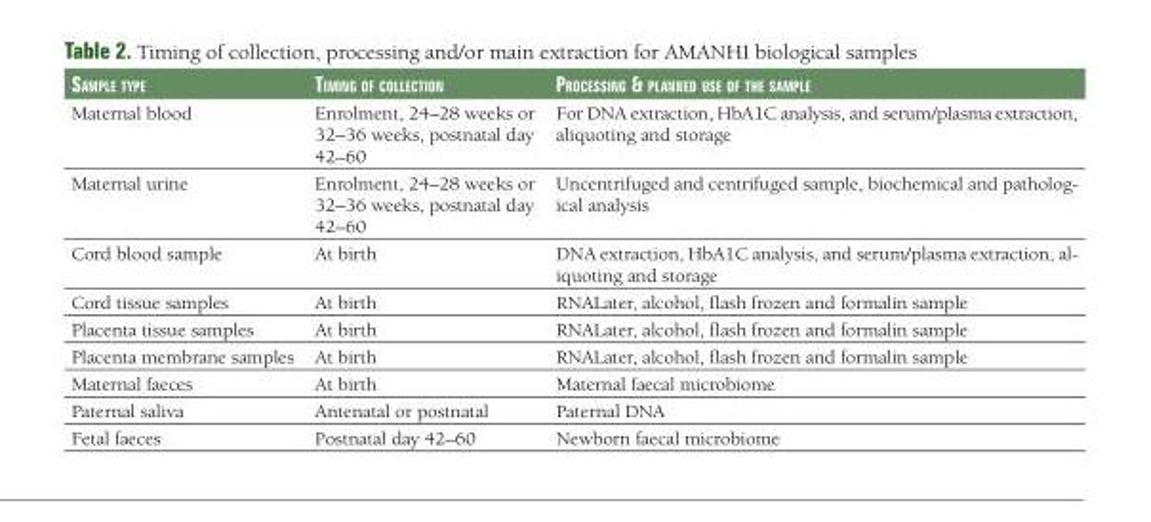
<table><thead><tr><td>saMple type</td><td>tiMing of collection</td><td>processing &amp; planned use of tHe saMple</td></tr></thead><tbody><tr><td>Maternal blood</td><td>Enrolment, 24–28 weeks or 32–36 weeks, postnatal day 42–60</td><td>For DNA extraction, HbA1C analysis, and serum/plasma extraction, aliquoting and storage</td></tr><tr><td>Maternal urine</td><td>Enrolment, 24–28 weeks or 32–36 weeks, postnatal day 42–60</td><td>Uncentrifuged and centrifuged sample, biochemical and patholog- ical analysis</td></tr><tr><td>Cord blood sample</td><td>At birth</td><td>DNA extraction, HbA1C analysis, and serum/plasma extraction, al- iquoting and storage</td></tr><tr><td>Cord tissue samples</td><td>At birth</td><td>RNALater, alcohol, flash frozen and formalin sample</td></tr><tr><td>Placenta tissue samples</td><td>At birth</td><td>RNALater, alcohol, flash frozen and formalin sample</td></tr><tr><td>Placenta membrane samples</td><td>At birth</td><td>RNALater, alcohol, flash frozen and formalin sample</td></tr><tr><td>Maternal faeces</td><td>At birth</td><td>Maternal faecal microbiome</td></tr><tr><td>Paternal saliva</td><td>Antenatal or postnatal</td><td>Paternal DNA</td></tr><tr><td>Fetal faeces</td><td>Postnatal day 42–60</td><td>Newborn faecal microbiome</td></tr></tbody></table>